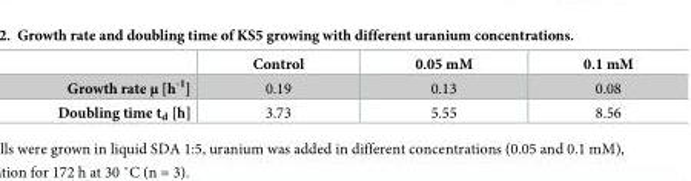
<table><thead><tr><td></td><td>Control</td><td>0.05 mM</td><td>0.1 mM</td></tr></thead><tbody><tr><td>Growth rate μ [h<sup>-1</sup>]</td><td>0.19</td><td>0.13</td><td>0.08</td></tr><tr><td>Doubling time t<sub>d</sub> [h]</td><td>3.73</td><td>5.55</td><td>8.56</td></tr></tbody></table>